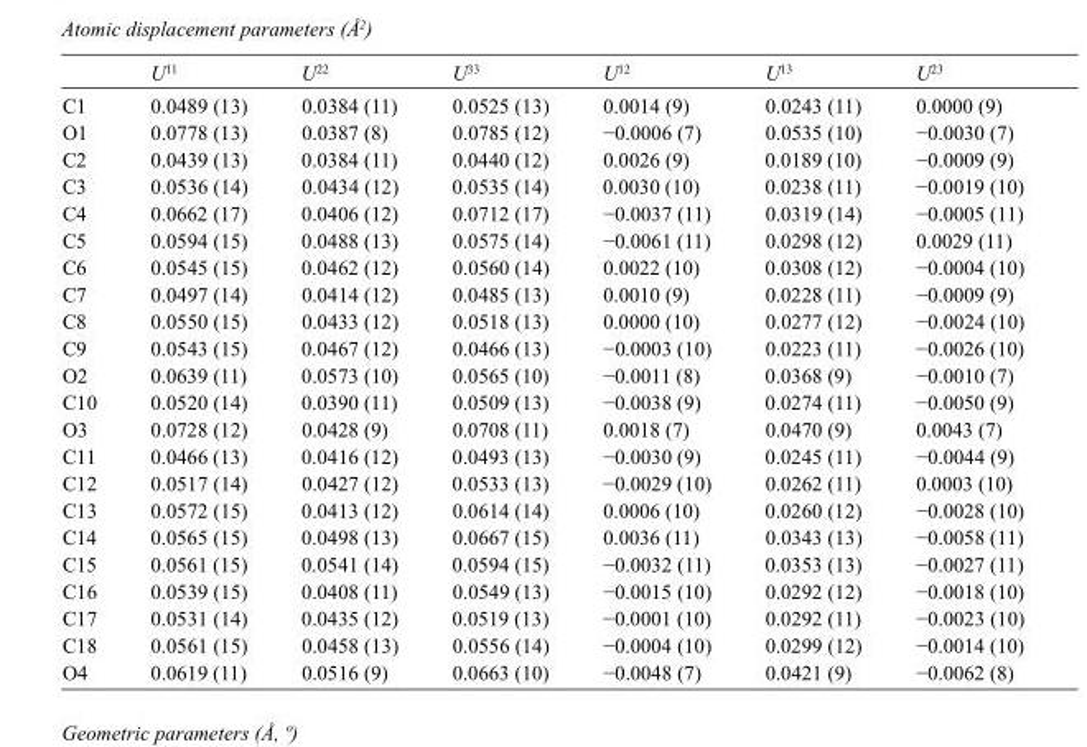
<table><thead><tr><td></td><td>U<sup>11</sup></td><td>U<sup>22</sup></td><td>U<sup>33</sup></td><td>U<sup>12</sup></td><td>U<sup>13</sup></td><td>U<sup>23</sup></td></tr></thead><tbody><tr><td>C1</td><td>0.0489 (13)</td><td>0.0384 (11)</td><td>0.0525 (13)</td><td>0.0014 (9)</td><td>0.0243 (11)</td><td>0.0000 (9)</td></tr><tr><td>O1</td><td>0.0778 (13)</td><td>0.0387 (8)</td><td>0.0785 (12)</td><td>−0.0006 (7)</td><td>0.0535 (10)</td><td>−0.0030 (7)</td></tr><tr><td>C2</td><td>0.0439 (13)</td><td>0.0384 (11)</td><td>0.0440 (12)</td><td>0.0026 (9)</td><td>0.0189 (10)</td><td>−0.0009 (9)</td></tr><tr><td>C3</td><td>0.0536 (14)</td><td>0.0434 (12)</td><td>0.0535 (14)</td><td>0.0030 (10)</td><td>0.0238 (11)</td><td>−0.0019 (10)</td></tr><tr><td>C4</td><td>0.0662 (17)</td><td>0.0406 (12)</td><td>0.0712 (17)</td><td>−0.0037 (11)</td><td>0.0319 (14)</td><td>−0.0005 (11)</td></tr><tr><td>C5</td><td>0.0594 (15)</td><td>0.0488 (13)</td><td>0.0575 (14)</td><td>−0.0061 (11)</td><td>0.0298 (12)</td><td>0.0029 (11)</td></tr><tr><td>C6</td><td>0.0545 (15)</td><td>0.0462 (12)</td><td>0.0560 (14)</td><td>0.0022 (10)</td><td>0.0308 (12)</td><td>−0.0004 (10)</td></tr><tr><td>C7</td><td>0.0497 (14)</td><td>0.0414 (12)</td><td>0.0485 (13)</td><td>0.0010 (9)</td><td>0.0228 (11)</td><td>−0.0009 (9)</td></tr><tr><td>C8</td><td>0.0550 (15)</td><td>0.0433 (12)</td><td>0.0518 (13)</td><td>0.0000 (10)</td><td>0.0277 (12)</td><td>−0.0024 (10)</td></tr><tr><td>C9</td><td>0.0543 (15)</td><td>0.0467 (12)</td><td>0.0466 (13)</td><td>−0.0003 (10)</td><td>0.0223 (11)</td><td>−0.0026 (10)</td></tr><tr><td>O2</td><td>0.0639 (11)</td><td>0.0573 (10)</td><td>0.0565 (10)</td><td>−0.0011 (8)</td><td>0.0368 (9)</td><td>−0.0010 (7)</td></tr><tr><td>C10</td><td>0.0520 (14)</td><td>0.0390 (11)</td><td>0.0509 (13)</td><td>−0.0038 (9)</td><td>0.0274 (11)</td><td>−0.0050 (9)</td></tr><tr><td>O3</td><td>0.0728 (12)</td><td>0.0428 (9)</td><td>0.0708 (11)</td><td>0.0018 (7)</td><td>0.0470 (9)</td><td>0.0043 (7)</td></tr><tr><td>C11</td><td>0.0466 (13)</td><td>0.0416 (12)</td><td>0.0493 (13)</td><td>−0.0030 (9)</td><td>0.0245 (11)</td><td>−0.0044 (9)</td></tr><tr><td>C12</td><td>0.0517 (14)</td><td>0.0427 (12)</td><td>0.0533 (13)</td><td>−0.0029 (10)</td><td>0.0262 (11)</td><td>0.0003 (10)</td></tr><tr><td>C13</td><td>0.0572 (15)</td><td>0.0413 (12)</td><td>0.0614 (14)</td><td>0.0006 (10)</td><td>0.0260 (12)</td><td>−0.0028 (10)</td></tr><tr><td>C14</td><td>0.0565 (15)</td><td>0.0498 (13)</td><td>0.0667 (15)</td><td>0.0036 (11)</td><td>0.0343 (13)</td><td>−0.0058 (11)</td></tr><tr><td>C15</td><td>0.0561 (15)</td><td>0.0541 (14)</td><td>0.0594 (15)</td><td>−0.0032 (11)</td><td>0.0353 (13)</td><td>−0.0027 (11)</td></tr><tr><td>C16</td><td>0.0539 (15)</td><td>0.0408 (11)</td><td>0.0549 (13)</td><td>−0.0015 (10)</td><td>0.0292 (12)</td><td>−0.0018 (10)</td></tr><tr><td>C17</td><td>0.0531 (14)</td><td>0.0435 (12)</td><td>0.0519 (13)</td><td>−0.0001 (10)</td><td>0.0292 (11)</td><td>−0.0023 (10)</td></tr><tr><td>C18</td><td>0.0561 (15)</td><td>0.0458 (13)</td><td>0.0556 (14)</td><td>−0.0004 (10)</td><td>0.0299 (12)</td><td>−0.0014 (10)</td></tr><tr><td>O4</td><td>0.0619 (11)</td><td>0.0516 (9)</td><td>0.0663 (10)</td><td>−0.0048 (7)</td><td>0.0421 (9)</td><td>−0.0062 (8)</td></tr></tbody></table>